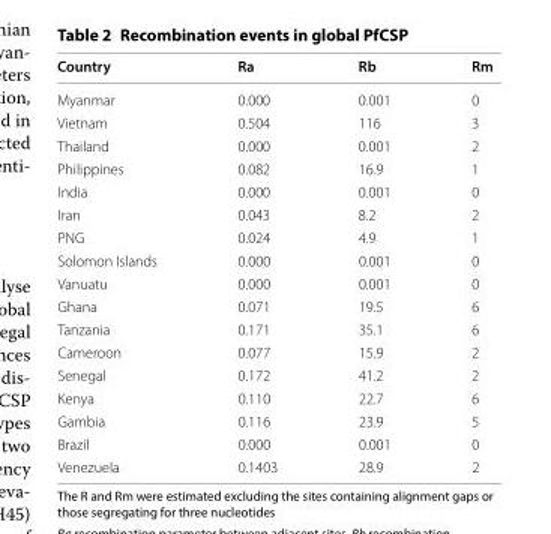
<table><thead><tr><td>Country</td><td>Ra</td><td>Rb</td><td>Rm</td></tr></thead><tbody><tr><td>Myanmar</td><td>0.000</td><td>0.001</td><td>0</td></tr><tr><td>Vietnam</td><td>0.504</td><td>116</td><td>3</td></tr><tr><td>Thailand</td><td>0.000</td><td>0.001</td><td>2</td></tr><tr><td>Philippines</td><td>0.082</td><td>16.9</td><td>1</td></tr><tr><td>India</td><td>0.000</td><td>0.001</td><td>0</td></tr><tr><td>Iran</td><td>0.043</td><td>8.2</td><td>2</td></tr><tr><td>PNG</td><td>0.024</td><td>4.9</td><td>1</td></tr><tr><td>Solomon Islands</td><td>0.000</td><td>0.001</td><td>0</td></tr><tr><td>Vanuatu</td><td>0.000</td><td>0.001</td><td>0</td></tr><tr><td>Ghana</td><td>0.071</td><td>19.5</td><td>6</td></tr><tr><td>Tanzania</td><td>0.171</td><td>35.1</td><td>6</td></tr><tr><td>Cameroon</td><td>0.077</td><td>15.9</td><td>2</td></tr><tr><td>Senegal</td><td>0.172</td><td>41.2</td><td>2</td></tr><tr><td>Kenya</td><td>0.110</td><td>22.7</td><td>6</td></tr><tr><td>Gambia</td><td>0.116</td><td>23.9</td><td>5</td></tr><tr><td>Brazil</td><td>0.000</td><td>0.001</td><td>0</td></tr><tr><td>Venezuela</td><td>0.1403</td><td>28.9</td><td>2</td></tr></tbody></table>